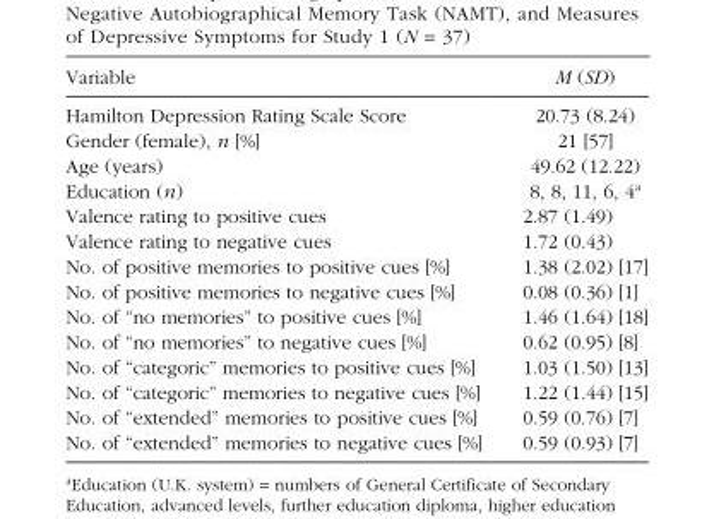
<table><thead><tr><td>Variable</td><td>M (SD)</td></tr></thead><tbody><tr><td>Hamilton Depression Rating Scale Score</td><td>20.73 (8.24)</td></tr><tr><td>Gender (female), n [%]</td><td>21 [57]</td></tr><tr><td>Age (years)</td><td>49.62 (12.22)</td></tr><tr><td>Education (n)</td><td>8, 8, 11, 6, 4<sup>a</sup></td></tr><tr><td>Valence rating to positive cues</td><td>2.87 (1.49)</td></tr><tr><td>Valence rating to negative cues</td><td>1.72 (0.43)</td></tr><tr><td>No. of positive memories to positive cues [%]</td><td>1.38 (2.02) [17]</td></tr><tr><td>No. of positive memories to negative cues [%]</td><td>0.08 (0.36) [1]</td></tr><tr><td>No. of “no memories” to positive cues [%]</td><td>1.46 (1.64) [18]</td></tr><tr><td>No. of “no memories” to negative cues [%]</td><td>0.62 (0.95) [8]</td></tr><tr><td>No. of “categoric” memories to positive cues [%]</td><td>1.03 (1.50) [13]</td></tr><tr><td>No. of “categoric” memories to negative cues [%]</td><td>1.22 (1.44) [15]</td></tr><tr><td>No. of “extended” memories to positive cues [%]</td><td>0.59 (0.76) [7]</td></tr><tr><td>No. of “extended” memories to negative cues [%]</td><td>0.59 (0.93) [7]</td></tr></tbody></table>